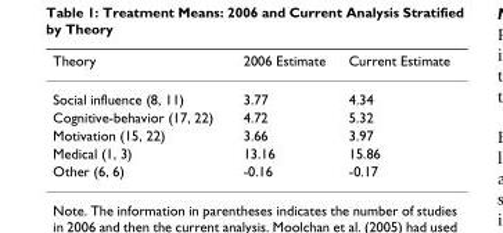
<table><thead><tr><td>Theory</td><td>2006 Estimate</td><td>Current Estimate</td></tr></thead><tbody><tr><td>Social influence (8, 11)</td><td>3.77</td><td>4.34</td></tr><tr><td>Cognitive-behavior (17, 22)</td><td>4.72</td><td>5.32</td></tr><tr><td>Motivation (15, 22)</td><td>3.66</td><td>3.97</td></tr><tr><td>Medical (1, 3)</td><td>13.16</td><td>15.86</td></tr><tr><td>Other (6, 6)</td><td>-0.16</td><td>-0.17</td></tr></tbody></table>